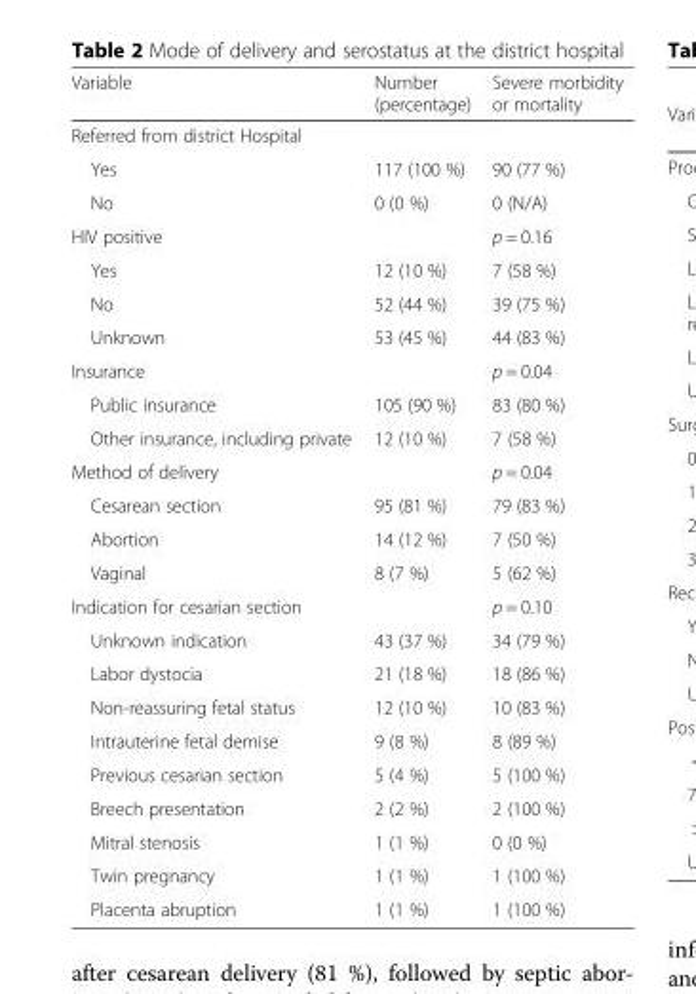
<table><thead><tr><td>Variable</td><td>Number (percentage)</td><td>Severe morbidity or mortality</td></tr></thead><tbody><tr><td colspan="3">Referred from district Hospital</td></tr><tr><td>Yes</td><td>117 (100 %)</td><td>90 (77 %)</td></tr><tr><td>No</td><td>0 (0 %)</td><td>0 (N/A)</td></tr><tr><td>HIV positive</td><td></td><td>p = 0.16</td></tr><tr><td>Yes</td><td>12 (10 %)</td><td>7 (58 %)</td></tr><tr><td>No</td><td>52 (44 %)</td><td>39 (75 %)</td></tr><tr><td>Unknown</td><td>53 (45 %)</td><td>44 (83 %)</td></tr><tr><td>Insurance</td><td></td><td>p = 0.04</td></tr><tr><td>Public insurance</td><td>105 (90 %)</td><td>83 (80 %)</td></tr><tr><td>Other insurance, including private</td><td>12 (10 %)</td><td>7 (58 %)</td></tr><tr><td>Method of delivery</td><td></td><td>p = 0.04</td></tr><tr><td>Cesarean section</td><td>95 (81 %)</td><td>79 (83 %)</td></tr><tr><td>Abortion</td><td>14 (12 %)</td><td>7 (50 %)</td></tr><tr><td>Vaginal</td><td>8 (7 %)</td><td>5 (62 %)</td></tr><tr><td>Indication for cesarian section</td><td></td><td>p = 0.10</td></tr><tr><td>Unknown indication</td><td>43 (37 %)</td><td>34 (79 %)</td></tr><tr><td>Labor dystocia</td><td>21 (18 %)</td><td>18 (86 %)</td></tr><tr><td>Non-reassuring fetal status</td><td>12 (10 %)</td><td>10 (83 %)</td></tr><tr><td>Intrauterine fetal demise</td><td>9 (8 %)</td><td>8 (89 %)</td></tr><tr><td>Previous cesarian section</td><td>5 (4 %)</td><td>5 (100 %)</td></tr><tr><td>Breech presentation</td><td>2 (2 %)</td><td>2 (100 %)</td></tr><tr><td>Mitral stenosis</td><td>1 (1 %)</td><td>0 (0 %)</td></tr><tr><td>Twin pregnancy</td><td>1 (1 %)</td><td>1 (100 %)</td></tr><tr><td>Placenta abruption</td><td>1 (1 %)</td><td>1 (100 %)</td></tr></tbody></table>